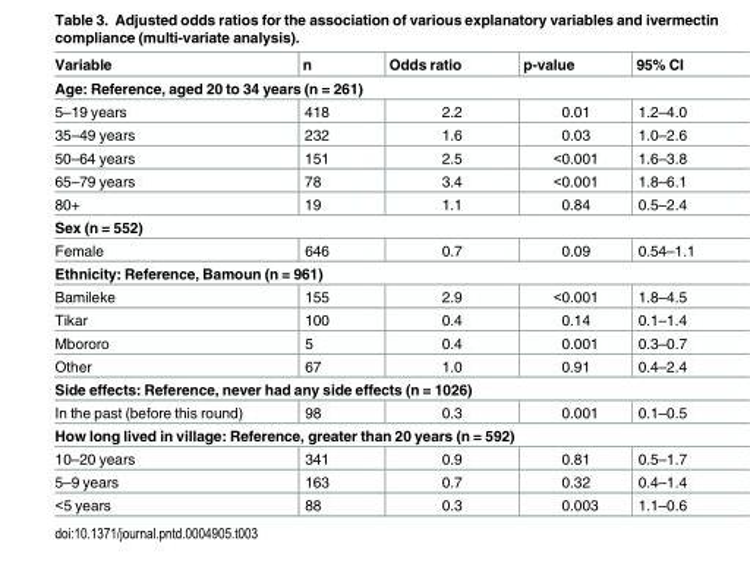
<table><thead><tr><td>Variable</td><td>n</td><td>Odds ratio</td><td>p-value</td><td>95% CI</td></tr></thead><tbody><tr><td colspan="5">Age: Reference, aged 20 to 34 years (n = 261)</td></tr><tr><td>5–19 years</td><td>418</td><td>2.2</td><td>0.01</td><td>1.2–4.0</td></tr><tr><td>35–49 years</td><td>232</td><td>1.6</td><td>0.03</td><td>1.0–2.6</td></tr><tr><td>50–64 years</td><td>151</td><td>2.5</td><td>&lt;0.001</td><td>1.6–3.8</td></tr><tr><td>65–79 years</td><td>78</td><td>3.4</td><td>&lt;0.001</td><td>1.8–6.1</td></tr><tr><td>80+</td><td>19</td><td>1.1</td><td>0.84</td><td>0.5–2.4</td></tr><tr><td colspan="5">Sex (n = 552)</td></tr><tr><td>Female</td><td>646</td><td>0.7</td><td>0.09</td><td>0.54–1.1</td></tr><tr><td colspan="5">Ethnicity: Reference, Bamoun (n = 961)</td></tr><tr><td>Bamileke</td><td>155</td><td>2.9</td><td>&lt;0.001</td><td>1.8–4.5</td></tr><tr><td>Tikar</td><td>100</td><td>0.4</td><td>0.14</td><td>0.1–1.4</td></tr><tr><td>Mbororo</td><td>5</td><td>0.4</td><td>0.001</td><td>0.3–0.7</td></tr><tr><td>Other</td><td>67</td><td>1.0</td><td>0.91</td><td>0.4–2.4</td></tr><tr><td colspan="5">Side effects: Reference, never had any side effects (n = 1026)</td></tr><tr><td>In the past (before this round)</td><td>98</td><td>0.3</td><td>0.001</td><td>0.1–0.5</td></tr><tr><td colspan="5">How long lived in village: Reference, greater than 20 years (n = 592)</td></tr><tr><td>10–20 years</td><td>341</td><td>0.9</td><td>0.81</td><td>0.5–1.7</td></tr><tr><td>5–9 years</td><td>163</td><td>0.7</td><td>0.32</td><td>0.4–1.4</td></tr><tr><td>&lt;5 years</td><td>88</td><td>0.3</td><td>0.003</td><td>1.1–0.6</td></tr></tbody></table>